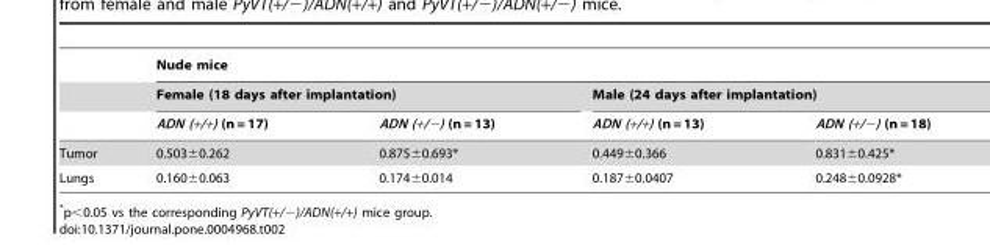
<table><thead><tr><td rowspan="3"></td><td colspan="4">Nude mice</td></tr><tr><td colspan="2">Female (18 days after implantation)</td><td colspan="2">Male (24 days after implantation)</td></tr><tr><td>ADN (+/+) (n = 17)</td><td>ADN (+/−) (n = 13)</td><td>ADN (+/+) (n = 13)</td><td>ADN (+/−) (n = 18)</td></tr></thead><tbody><tr><td>Tumor</td><td>0.503±0.262</td><td>0.875±0.693*</td><td>0.449±0.366</td><td>0.831±0.425*</td></tr><tr><td>Lungs</td><td>0.160±0.063</td><td>0.174±0.014</td><td>0.187±0.0407</td><td>0.248±0.0928*</td></tr></tbody></table>